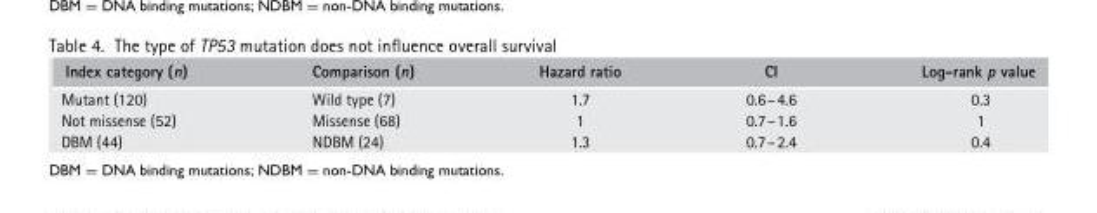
<table><thead><tr><td>Index category (n)</td><td>Comparison (n)</td><td>Hazard ratio</td><td>CI</td><td>Log-rank p value</td></tr></thead><tbody><tr><td>Mutant (120)</td><td>Wild type (7)</td><td>1.7</td><td>0.6–4.6</td><td>0.3</td></tr><tr><td>Not missense (52)</td><td>Missense (68)</td><td>1</td><td>0.7–1.6</td><td>1</td></tr><tr><td>DBM (44)</td><td>NDBM (24)</td><td>1.3</td><td>0.7–2.4</td><td>0.4</td></tr></tbody></table>